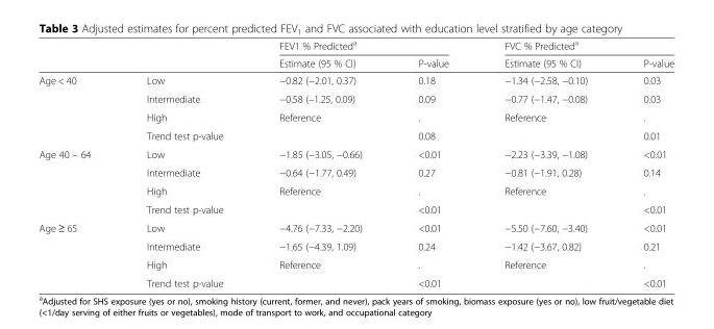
<table><thead><tr><td rowspan="2"></td><td rowspan="2"></td><td colspan="2">FEV1 % Predicted<sup>a</sup></td><td colspan="2">FVC % Predicted<sup>a</sup></td></tr><tr><td>Estimate (95 % CI)</td><td>P-value</td><td>Estimate (95 % CI)</td><td>P-value</td></tr></thead><tbody><tr><td rowspan="4">Age &lt; 40</td><td>Low</td><td>−0.82 (−2.01, 0.37)</td><td>0.18</td><td>−1.34 (−2.58, −0.10)</td><td>0.03</td></tr><tr><td>Intermediate</td><td>−0.58 (–1.25, 0.09)</td><td>0.09</td><td>−0.77 (−1.47, −0.08)</td><td>0.03</td></tr><tr><td>High</td><td>Reference</td><td>.</td><td>Reference</td><td>.</td></tr><tr><td>Trend test p-value</td><td></td><td>0.08</td><td></td><td>0.01</td></tr><tr><td rowspan="4">Age 40 – 64</td><td>Low</td><td>−1.85 (−3.05, −0.66)</td><td>&lt;0.01</td><td>−2.23 (−3.39, −1.08)</td><td>&lt;0.01</td></tr><tr><td>Intermediate</td><td>−0.64 (−1.77, 0.49)</td><td>0.27</td><td>−0.81 (−1.91, 0.28)</td><td>0.14</td></tr><tr><td>High</td><td>Reference</td><td>.</td><td>Reference</td><td>.</td></tr><tr><td>Trend test p-value</td><td></td><td>&lt;0.01</td><td></td><td>&lt;0.01</td></tr><tr><td rowspan="4">Age ≥ 65</td><td>Low</td><td>−4.76 (−7.33, −2.20)</td><td>&lt;0.01</td><td>−5.50 (−7.60, −3.40)</td><td>&lt;0.01</td></tr><tr><td>Intermediate</td><td>−1.65 (−4.39, 1.09)</td><td>0.24</td><td>−1.42 (−3.67, 0.82)</td><td>0.21</td></tr><tr><td>High</td><td>Reference</td><td>.</td><td>Reference</td><td>.</td></tr><tr><td>Trend test p-value</td><td></td><td>&lt;0.01</td><td></td><td>&lt;0.01</td></tr></tbody></table>